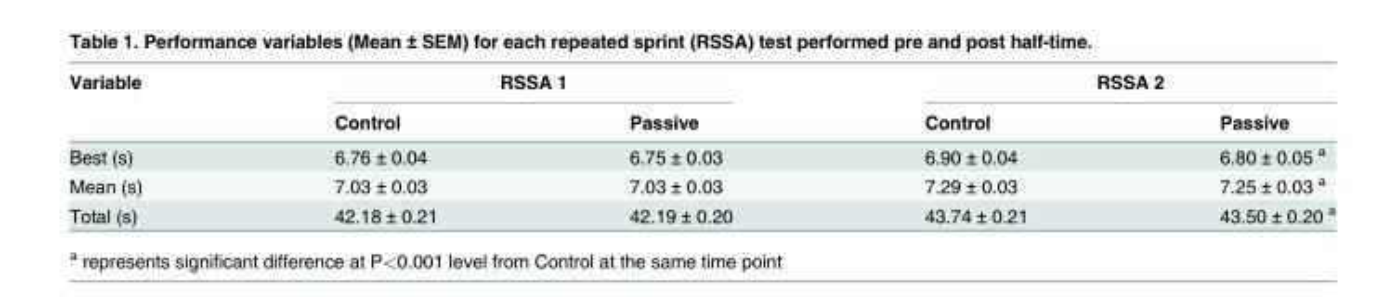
<table><thead><tr><td rowspan="2">Variable</td><td colspan="2">RSSA 1</td><td colspan="2">RSSA 2</td></tr><tr><td>Control</td><td>Passive</td><td>Control</td><td>Passive</td></tr></thead><tbody><tr><td>Best (s)</td><td>6.76 ± 0.04</td><td>6.75 ± 0.03</td><td>6.90 ± 0.04</td><td>6.80 ± 0.05 <sup>a</sup></td></tr><tr><td>Mean (s)</td><td>7.03 ± 0.03</td><td>7.03 ± 0.03</td><td>7.29 ± 0.03</td><td>7.25 ± 0.03 <sup>a</sup></td></tr><tr><td>Total (s)</td><td>42.18 ± 0.21</td><td>42.19 ± 0.20</td><td>43.74 ± 0.21</td><td>43.50 ± 0.20</td></tr></tbody></table>